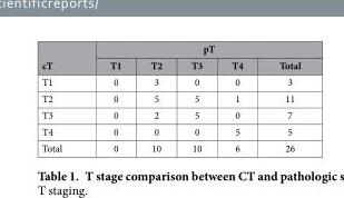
<table><thead><tr><td rowspan="2">cT</td><td colspan="5">pT</td></tr><tr><td>T1</td><td>T2</td><td>T3</td><td>T4</td><td>Total</td></tr></thead><tbody><tr><td>T1</td><td>0</td><td>3</td><td>0</td><td>0</td><td>3</td></tr><tr><td>T2</td><td>0</td><td>5</td><td>5</td><td>1</td><td>11</td></tr><tr><td>T3</td><td>0</td><td>2</td><td>5</td><td>0</td><td>7</td></tr><tr><td>T4</td><td>0</td><td>0</td><td>0</td><td>5</td><td>5</td></tr><tr><td>Total</td><td>0</td><td>10</td><td>10</td><td>6</td><td>26</td></tr></tbody></table>